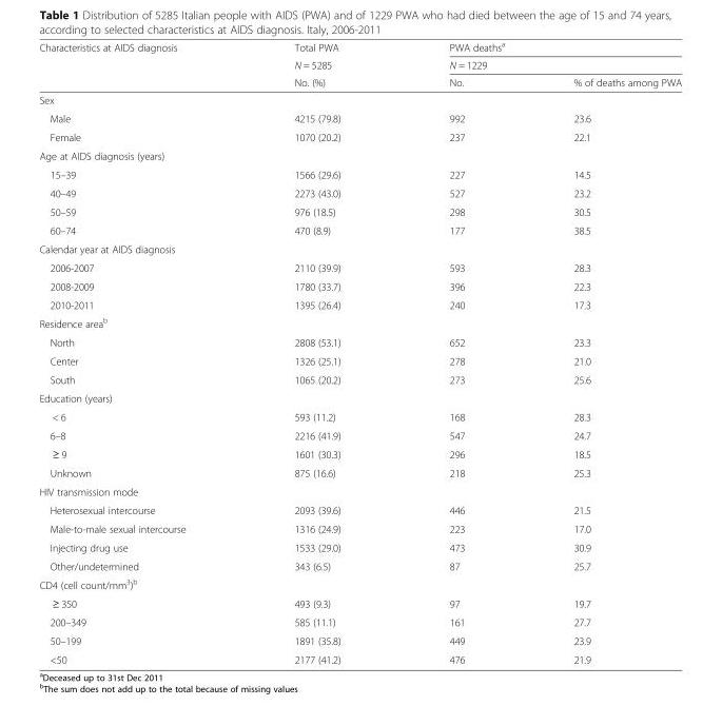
<table><thead><tr><td rowspan="3">Characteristics at AIDS diagnosis</td><td rowspan="3">Total PWA N = 5285 No. (%)</td><td rowspan="2" colspan="2">PWA deaths<sup>a</sup> N = 1229</td></tr><tr></tr><tr><td>No.</td><td>% of deaths among PWA</td></tr></thead><tbody><tr><td colspan="4">Sex</td></tr><tr><td>Male</td><td>4215 (79.8)</td><td>992</td><td>23.6</td></tr><tr><td>Female</td><td>1070 (20.2)</td><td>237</td><td>22.1</td></tr><tr><td colspan="4">Age at AIDS diagnosis (years)</td></tr><tr><td>15–39</td><td>1566 (29.6)</td><td>227</td><td>14.5</td></tr><tr><td>40–49</td><td>2273 (43.0)</td><td>527</td><td>23.2</td></tr><tr><td>50–59</td><td>976 (18.5)</td><td>298</td><td>30.5</td></tr><tr><td>60–74</td><td>470 (8.9)</td><td>177</td><td>38.5</td></tr><tr><td colspan="4">Calendar year at AIDS diagnosis</td></tr><tr><td>2006-2007</td><td>2110 (39.9)</td><td>593</td><td>28.3</td></tr><tr><td>2008-2009</td><td>1780 (33.7)</td><td>396</td><td>22.3</td></tr><tr><td>2010-2011</td><td>1395 (26.4)</td><td>240</td><td>17.3</td></tr><tr><td colspan="4">Residence area<sup>b</sup></td></tr><tr><td>North</td><td>2808 (53.1)</td><td>652</td><td>23.3</td></tr><tr><td>Center</td><td>1326 (25.1)</td><td>278</td><td>21.0</td></tr><tr><td>South</td><td>1065 (20.2)</td><td>273</td><td>25.6</td></tr><tr><td colspan="4">Education (years)</td></tr><tr><td>&lt; 6</td><td>593 (11.2)</td><td>168</td><td>28.3</td></tr><tr><td>6–8</td><td>2216 (41.9)</td><td>547</td><td>24.7</td></tr><tr><td>≥ 9</td><td>1601 (30.3)</td><td>296</td><td>18.5</td></tr><tr><td>Unknown</td><td>875 (16.6)</td><td>218</td><td>25.3</td></tr><tr><td colspan="4">HIV transmission mode</td></tr><tr><td>Heterosexual intercourse</td><td>2093 (39.6)</td><td>446</td><td>21.5</td></tr><tr><td>Male-to-male sexual intercourse</td><td>1316 (24.9)</td><td>223</td><td>17.0</td></tr><tr><td>Injecting drug use</td><td>1533 (29.0)</td><td>473</td><td>30.9</td></tr><tr><td>Other/undetermined</td><td>343 (6.5)</td><td>87</td><td>25.7</td></tr><tr><td colspan="4">CD4 (cell count/mm<sup>3</sup>)<sup>b</sup></td></tr><tr><td>≥ 350</td><td>493 (9.3)</td><td>97</td><td>19.7</td></tr><tr><td>200–349</td><td>585 (11.1)</td><td>161</td><td>27.7</td></tr><tr><td>50–199</td><td>1891 (35.8)</td><td>449</td><td>23.9</td></tr><tr><td>&lt;50</td><td>2177 (41.2)</td><td>476</td><td>21.9</td></tr></tbody></table>